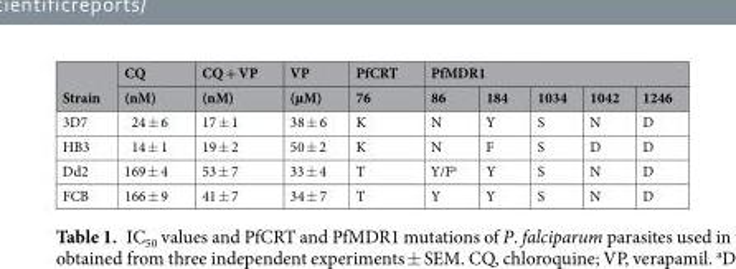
<table><thead><tr><td rowspan="2">Strain</td><td rowspan="2">CQ (nM)</td><td rowspan="2">CQ + VP (nM)</td><td rowspan="2">VP (µM)</td><td rowspan="2">PfCRT 76</td><td colspan="5">PfMDR1</td></tr><tr><td>86</td><td>184</td><td>1034</td><td>1042</td><td>1246</td></tr></thead><tbody><tr><td>3D7</td><td>24 ± 6</td><td>17 ± 1</td><td>38 ± 6</td><td>K</td><td>N</td><td>Y</td><td>S</td><td>N</td><td>D</td></tr><tr><td>HB3</td><td>14 ± 1</td><td>19 ± 2</td><td>50 ± 2</td><td>K</td><td>N</td><td>F</td><td>S</td><td>D</td><td>D</td></tr><tr><td>Dd2</td><td>169 ± 4</td><td>53 ± 7</td><td>33 ± 4</td><td>T</td><td>Y/F<sup>a</sup></td><td>Y</td><td>S</td><td>N</td><td>D</td></tr><tr><td>FCB</td><td>166 ± 9</td><td>41 ± 7</td><td>34 ± 7</td><td>T</td><td>Y</td><td>Y</td><td>S</td><td>N</td><td>D</td></tr></tbody></table>